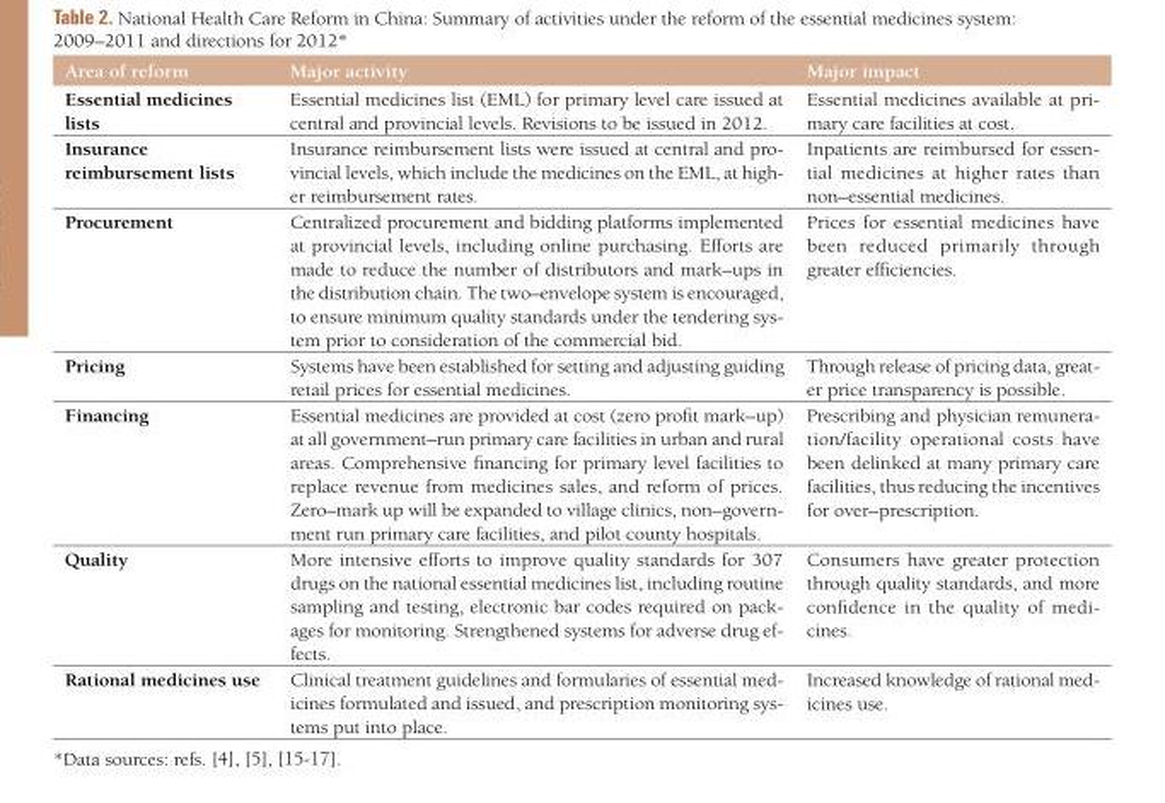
<table><thead><tr><td>Area of reform</td><td>Major activity</td><td>Major impact</td></tr></thead><tbody><tr><td>Essential medicines lists</td><td>Essential medicines list (EML) for primary level care issued at central and provincial levels. Revisions to be issued in 2012.</td><td>Essential medicines available at pri- mary care facilities at cost.</td></tr><tr><td>Insurance reimbursement lists</td><td>Insurance reimbursement lists were issued at central and pro- vincial levels, which include the medicines on the EML, at high- er reimbursement rates.</td><td>Inpatients are reimbursed for essen- tial medicines at higher rates than non–essential medicines.</td></tr><tr><td>Procurement</td><td>Centralized procurement and bidding platforms implemented at provincial levels, including online purchasing. Efforts are made to reduce the number of distributors and mark–ups in the distribution chain. The two–envelope system is encouraged, to ensure minimum quality standards under the tendering sys- tem prior to consideration of the commercial bid.</td><td>Prices for essential medicines have been reduced primarily through greater efficiencies.</td></tr><tr><td>Pricing</td><td>Systems have been established for setting and adjusting guiding retail prices for essential medicines.</td><td>Through release of pricing data, great- er price transparency is possible.</td></tr><tr><td>Financing</td><td>Essential medicines are provided at cost (zero profit mark–up) at all government–run primary care facilities in urban and rural areas. Comprehensive financing for primary level facilities to replace revenue from medicines sales, and reform of prices. Zero–mark up will be expanded to village clinics, non–govern- ment run primary care facilities, and pilot county hospitals.</td><td>Prescribing and physician remunera- tion/facility operational costs have been delinked at many primary care facilities, thus reducing the incentives for over–prescription.</td></tr><tr><td>Quality</td><td>More intensive efforts to improve quality standards for 307 drugs on the national essential medicines list, including routine sampling and testing, electronic bar codes required on pack- ages for monitoring. Strengthened systems for adverse drug ef- fects.</td><td>Consumers have greater protection through quality standards, and more confidence in the quality of medi- cines.</td></tr><tr><td>Rational medicines use</td><td>Clinical treatment guidelines and formularies of essential med- icines formulated and issued, and prescription monitoring sys- tems put into place.</td><td>Increased knowledge of rational med- icines use.</td></tr></tbody></table>